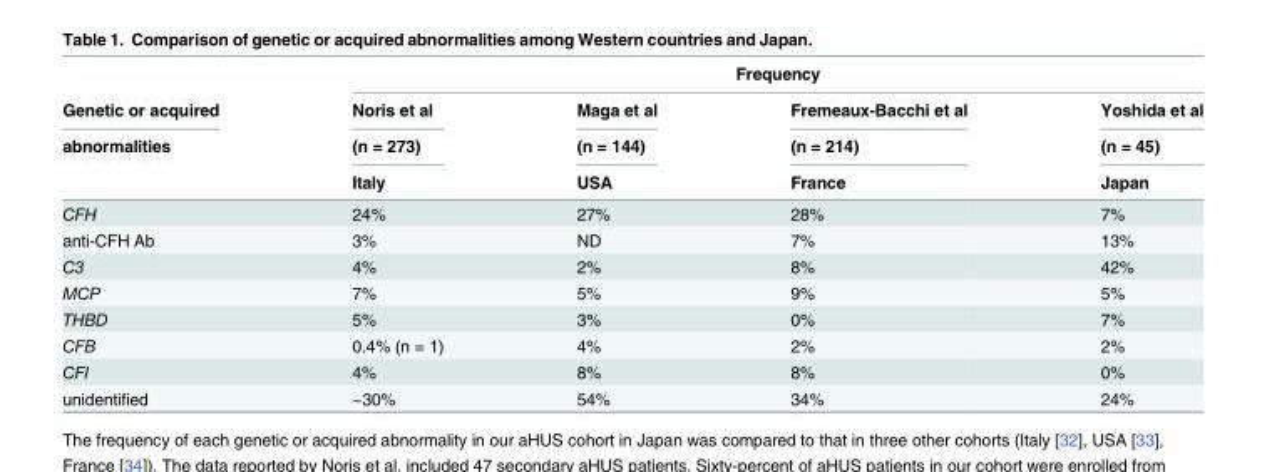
<table><thead><tr><td rowspan="4">Genetic or acquired abnormalities</td><td colspan="4">Frequency</td></tr><tr><td rowspan="3">Noris et al (n = 273) Italy</td><td rowspan="3">Maga et al (n = 144) USA</td><td rowspan="3">Fremeaux-Bacchi et al (n = 214) France</td><td rowspan="3">Yoshida et al (n = 45) Japan</td></tr><tr></tr><tr></tr></thead><tbody><tr><td>CFH</td><td>24%</td><td>27%</td><td>28%</td><td>7%</td></tr><tr><td>anti-CFH Ab</td><td>3%</td><td>ND</td><td>7%</td><td>13%</td></tr><tr><td>C3</td><td>4%</td><td>2%</td><td>8%</td><td>42%</td></tr><tr><td>MCP</td><td>7%</td><td>5%</td><td>9%</td><td>5%</td></tr><tr><td>THBD</td><td>5%</td><td>3%</td><td>0%</td><td>7%</td></tr><tr><td>CFB</td><td>0.4% (n = 1)</td><td>4%</td><td>2%</td><td>2%</td></tr><tr><td>CFI</td><td>4%</td><td>8%</td><td>8%</td><td>0%</td></tr><tr><td>unidentified</td><td>~30%</td><td>54%</td><td>34%</td><td>24%</td></tr></tbody></table>